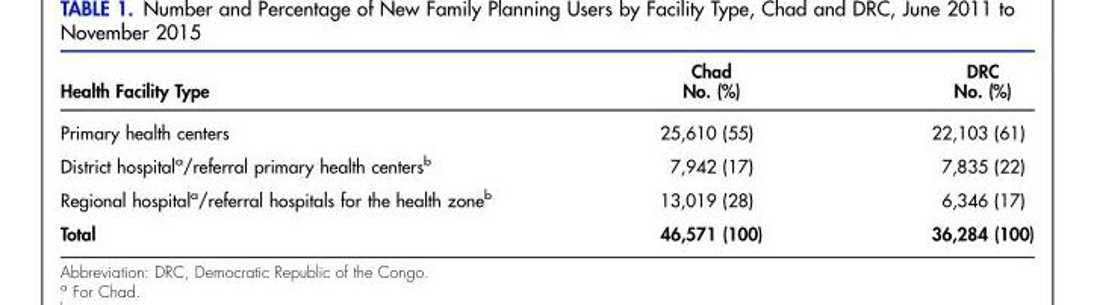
<table><thead><tr><td>Health Facility Type</td><td>Chad No. (%)</td><td>DRC No. (%)</td></tr></thead><tbody><tr><td>Primary health centers</td><td>25,610 (55)</td><td>22,103 (61)</td></tr><tr><td>District hospital<sup>a</sup>/referral primary health centers<sup>b</sup></td><td>7,942 (17)</td><td>7,835 (22)</td></tr><tr><td>Regional hospital<sup>a</sup>/referral hospitals for the health zone<sup>b</sup></td><td>13,019 (28)</td><td>6,346 (17)</td></tr><tr><td>Total</td><td>46,571 (100)</td><td>36,284 (100)</td></tr></tbody></table>